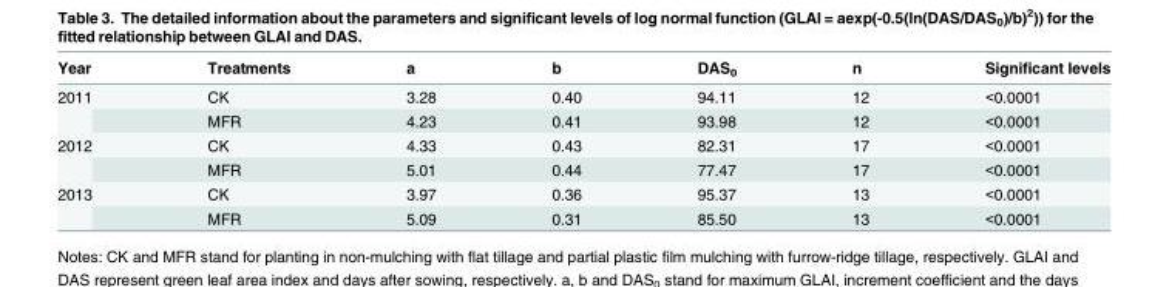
<table><thead><tr><td>Year</td><td>Treatments</td><td>a</td><td>b</td><td>DAS<sub>0</sub></td><td>n</td><td>Significant levels</td></tr></thead><tbody><tr><td rowspan="2">2011</td><td>CK</td><td>3.28</td><td>0.40</td><td>94.11</td><td>12</td><td>&lt;0.0001</td></tr><tr><td>MFR</td><td>4.23</td><td>0.41</td><td>93.98</td><td>12</td><td>&lt;0.0001</td></tr><tr><td rowspan="2">2012</td><td>CK</td><td>4.33</td><td>0.43</td><td>82.31</td><td>17</td><td>&lt;0.0001</td></tr><tr><td>MFR</td><td>5.01</td><td>0.44</td><td>77.47</td><td>17</td><td>&lt;0.0001</td></tr><tr><td rowspan="2">2013</td><td>CK</td><td>3.97</td><td>0.36</td><td>95.37</td><td>13</td><td>&lt;0.0001</td></tr><tr><td>MFR</td><td>5.09</td><td>0.31</td><td>85.50</td><td>13</td><td>&lt;0.0001</td></tr></tbody></table>